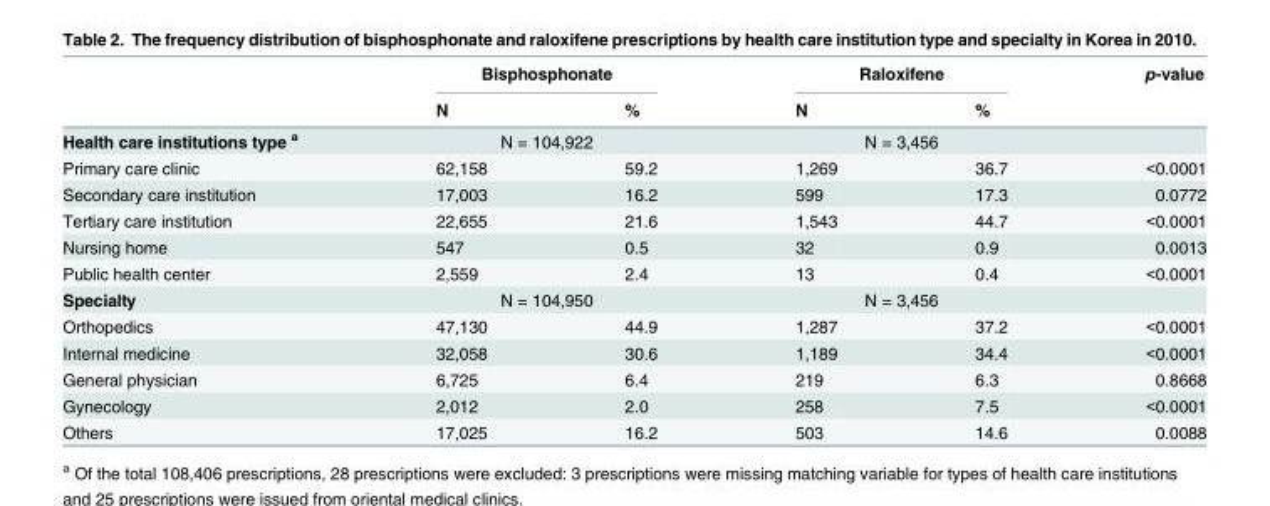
<table><thead><tr><td rowspan="2"></td><td colspan="2">Bisphosphonate</td><td colspan="2">Raloxifene</td><td rowspan="2">p-value</td></tr><tr><td>N</td><td>%</td><td>N</td><td>%</td></tr></thead><tbody><tr><td>Health care institutions type <sup>a</sup></td><td colspan="2">N = 104,922</td><td colspan="2">N = 3,456</td><td></td></tr><tr><td>Primary care clinic</td><td>62,158</td><td>59.2</td><td>1,269</td><td>36.7</td><td>&lt;0.0001</td></tr><tr><td>Secondary care institution</td><td>17,003</td><td>16.2</td><td>599</td><td>17.3</td><td>0.0772</td></tr><tr><td>Tertiary care institution</td><td>22,655</td><td>21.6</td><td>1,543</td><td>44.7</td><td>&lt;0.0001</td></tr><tr><td>Nursing home</td><td>547</td><td>0.5</td><td>32</td><td>0.9</td><td>0.0013</td></tr><tr><td>Public health center</td><td>2,559</td><td>2.4</td><td>13</td><td>0.4</td><td>&lt;0.0001</td></tr><tr><td>Specialty</td><td colspan="2">N = 104,950</td><td colspan="2">N = 3,456</td><td></td></tr><tr><td>Orthopedics</td><td>47,130</td><td>44.9</td><td>1,287</td><td>37.2</td><td>&lt;0.0001</td></tr><tr><td>Internal medicine</td><td>32,058</td><td>30.6</td><td>1,189</td><td>34.4</td><td>&lt;0.0001</td></tr><tr><td>General physician</td><td>6,725</td><td>6.4</td><td>219</td><td>6.3</td><td>0.8668</td></tr><tr><td>Gynecology</td><td>2,012</td><td>2.0</td><td>258</td><td>7.5</td><td>&lt;0.0001</td></tr><tr><td>Others</td><td>17,025</td><td>16.2</td><td>503</td><td>14.6</td><td>0.0088</td></tr></tbody></table>